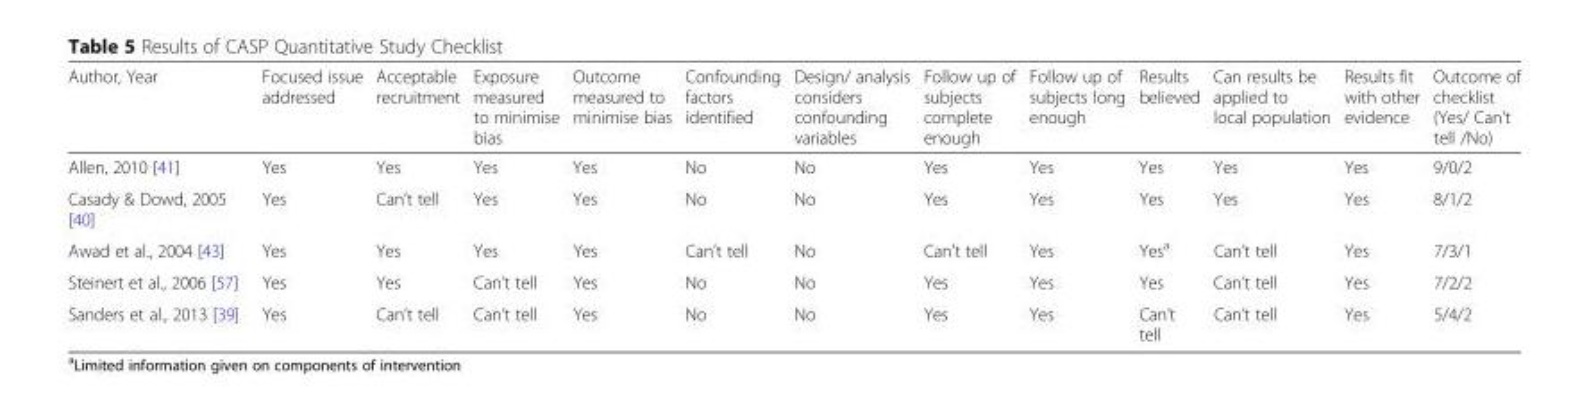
<table><thead><tr><td>Author, Year</td><td>Focused issue addressed</td><td>Acceptable recruitment</td><td>Exposure measured to minimise bias</td><td>Outcome measured to minimise bias</td><td>Confounding factors identified</td><td>Design/ analysis considers confounding variables</td><td>Follow up of subjects complete enough</td><td>Follow up of subjects long enough</td><td>Results believed</td><td>Can results be applied to local population</td><td>Results fit with other evidence</td><td>Outcome of checklist (Yes/ Can’t tell /No)</td></tr></thead><tbody><tr><td>Allen, 2010 [41]</td><td>Yes</td><td>Yes</td><td>Yes</td><td>Yes</td><td>No</td><td>No</td><td>Yes</td><td>Yes</td><td>Yes</td><td>Yes</td><td>Yes</td><td>9/0/2</td></tr><tr><td>Casady &amp; Dowd, 2005 [40]</td><td>Yes</td><td>Can’t tell</td><td>Yes</td><td>Yes</td><td>No</td><td>No</td><td>Yes</td><td>Yes</td><td>Yes</td><td>Yes</td><td>Yes</td><td>8/1/2</td></tr><tr><td>Awad et al., 2004 [43]</td><td>Yes</td><td>Yes</td><td>Yes</td><td>Yes</td><td>Can’t tell</td><td>No</td><td>Can’t tell</td><td>Yes</td><td>Yes<sup>a</sup></td><td>Can’t tell</td><td>Yes</td><td>7/3/1</td></tr><tr><td>Steinert et al., 2006 [57]</td><td>Yes</td><td>Yes</td><td>Can’t tell</td><td>Yes</td><td>No</td><td>No</td><td>Yes</td><td>Yes</td><td>Yes</td><td>Can’t tell</td><td>Yes</td><td>7/2/2</td></tr><tr><td>Sanders et al., 2013 [39]</td><td>Yes</td><td>Can’t tell</td><td>Can’t tell</td><td>Yes</td><td>No</td><td>No</td><td>Yes</td><td>Yes</td><td>Can’t tell</td><td>Can’t tell</td><td>Yes</td><td>5/4/2</td></tr></tbody></table>